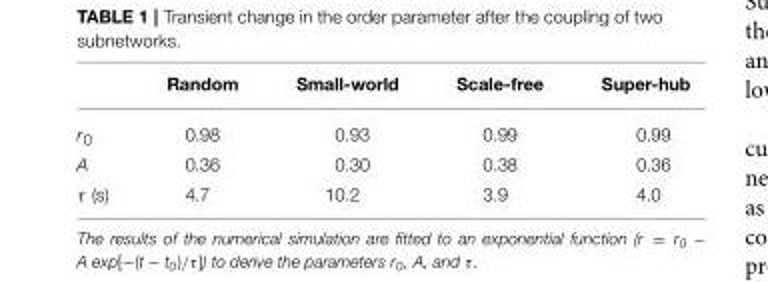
<table><thead><tr><td></td><td>Random</td><td>Small-world</td><td>Scale-free</td><td>Super-hub</td></tr></thead><tbody><tr><td>r<sub>0</sub></td><td>0.98</td><td>0.93</td><td>0.99</td><td>0.99</td></tr><tr><td>A</td><td>0.36</td><td>0.30</td><td>0.38</td><td>0.36</td></tr><tr><td>τ (s)</td><td>4.7</td><td>10.2</td><td>3.9</td><td>4.0</td></tr></tbody></table>